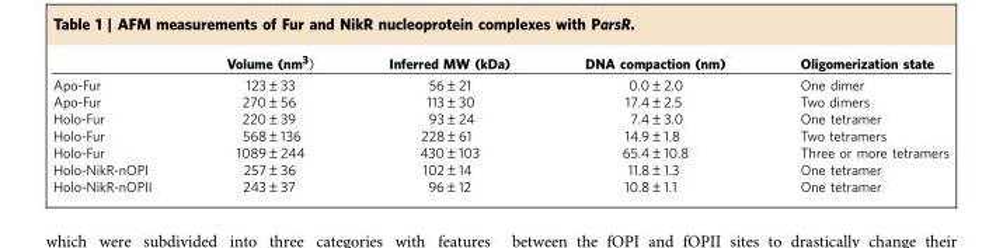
<table><thead><tr><td></td><td>Volume (nm<sup>3</sup>)</td><td>Inferred MW (kDa)</td><td>DNA compaction (nm)</td><td>Oligomerization state</td></tr></thead><tbody><tr><td>Apo-Fur</td><td>123±33</td><td>56±21</td><td>0.0±2.0</td><td>One dimer</td></tr><tr><td>Apo-Fur</td><td>270±56</td><td>113±30</td><td>17.4±2.5</td><td>Two dimers</td></tr><tr><td>Holo-Fur</td><td>220±39</td><td>93±24</td><td>7.4±3.0</td><td>One tetramer</td></tr><tr><td>Holo-Fur</td><td>568±136</td><td>228±61</td><td>14.9±1.8</td><td>Two tetramers</td></tr><tr><td>Holo-Fur</td><td>1089±244</td><td>430±103</td><td>65.4±10.8</td><td>Three or more tetramers</td></tr><tr><td>Holo-NikR-nOPI</td><td>257±36</td><td>102±14</td><td>11.8±1.3</td><td>One tetramer</td></tr><tr><td>Holo-NikR-nOPII</td><td>243±37</td><td>96±12</td><td>10.8±1.1</td><td>One tetramer</td></tr></tbody></table>